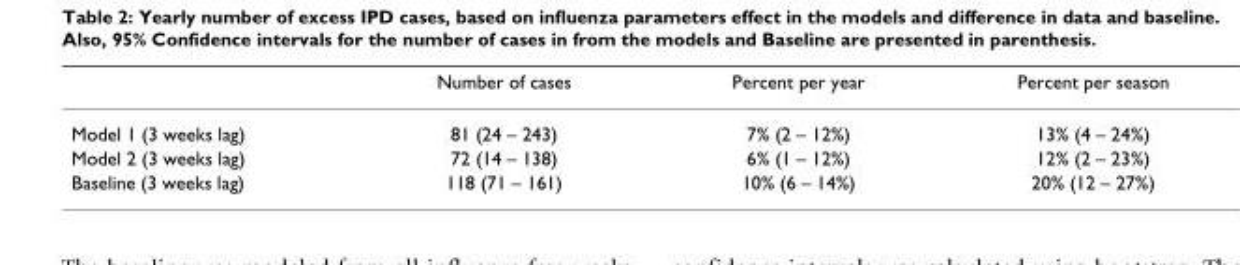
<table><thead><tr><td></td><td>Number of cases</td><td>Percent per year</td><td>Percent per season</td></tr></thead><tbody><tr><td>Model 1 (3 weeks lag)</td><td>81 (24 – 243)</td><td>7% (2 – 12%)</td><td>13% (4 – 24%)</td></tr><tr><td>Model 2 (3 weeks lag)</td><td>72 (14 – 138)</td><td>6% (1 – 12%)</td><td>12% (2 – 23%)</td></tr><tr><td>Baseline (3 weeks lag)</td><td>118 (71 – 161)</td><td>10% (6 – 14%)</td><td>20% (12 – 27%)</td></tr></tbody></table>